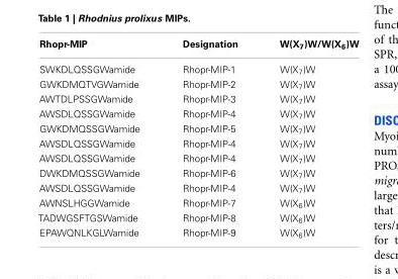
<table><thead><tr><td>Rhopr-MIP</td><td>Designation</td><td>W(X<sub>7</sub>)W/W(X<sub>6</sub>)W</td></tr></thead><tbody><tr><td>SWKDLQSSGWamide</td><td>Rhopr-MIP-1</td><td>W(X<sub>7</sub>)W</td></tr><tr><td>GWKDMQTVGWamide</td><td>Rhopr-MIP-2</td><td>W(X<sub>7</sub>)W</td></tr><tr><td>AWTDLPSSGWamide</td><td>Rhopr-MIP-3</td><td>W(X<sub>7</sub>)W</td></tr><tr><td>AWSDLQSSGWamide</td><td>Rhopr-MIP-4</td><td>W(X<sub>7</sub>)W</td></tr><tr><td>GWKDMQSSGWamide</td><td>Rhopr-MIP-5</td><td>W(X<sub>7</sub>)W</td></tr><tr><td>AWSDLQSSGWamide</td><td>Rhopr-MIP-4</td><td>W(X<sub>7</sub>)W</td></tr><tr><td>AWSDLQSSGWamide</td><td>Rhopr-MIP-4</td><td>W(X<sub>7</sub>)W</td></tr><tr><td>DWKDMQSSGWamide</td><td>Rhopr-MIP-6</td><td>W(X<sub>7</sub>)W</td></tr><tr><td>AWSDLQSSGWamide</td><td>Rhopr-MIP-4</td><td>W(X<sub>7</sub>)W</td></tr><tr><td>AWNSLHGGWamide</td><td>Rhopr-MIP-7</td><td>W(X<sub>6</sub>)W</td></tr><tr><td>TADWGSFTGSWamide</td><td>Rhopr-MIP-8</td><td>W(X<sub>6</sub>)W</td></tr><tr><td>EPAWQNLKGLWamide</td><td>Rhopr-MIP-9</td><td>W(X<sub>6</sub>)W</td></tr></tbody></table>